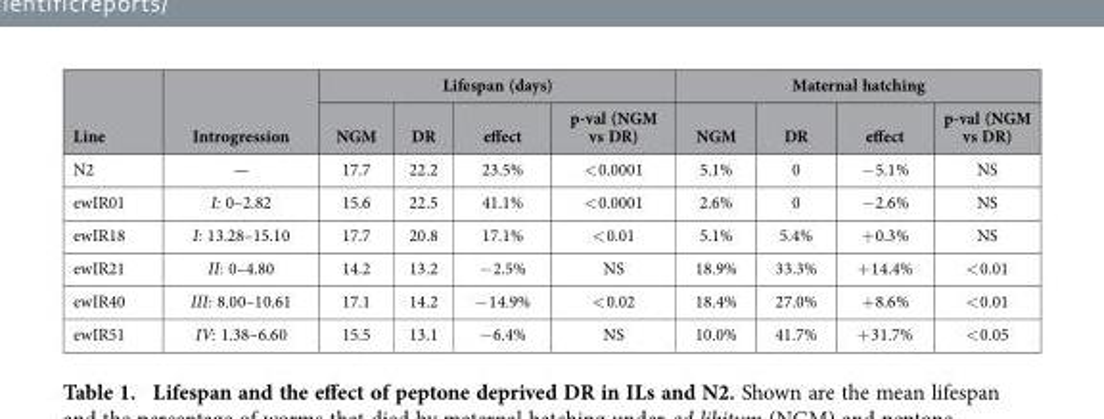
<table><thead><tr><td rowspan="2">Line</td><td rowspan="2">Introgression</td><td colspan="4">Lifespan (days)</td><td colspan="4">Maternal hatching</td></tr><tr><td>NGM</td><td>DR</td><td>effect</td><td>p-val (NGM vs DR)</td><td>NGM</td><td>DR</td><td>effect</td><td>p-val (NGM vs DR)</td></tr></thead><tbody><tr><td>N2</td><td>—</td><td>17.7</td><td>22.2</td><td>23.5%</td><td>&lt; 0.0001</td><td>5.1%</td><td>0</td><td>− 5.1%</td><td>NS</td></tr><tr><td>ewIR01</td><td>I: 0–2.82</td><td>15.6</td><td>22.5</td><td>41.1%</td><td>&lt; 0.0001</td><td>2.6%</td><td>0</td><td>− 2.6%</td><td>NS</td></tr><tr><td>ewIR18</td><td>I: 13.28–15.10</td><td>17.7</td><td>20.8</td><td>17.1%</td><td>&lt; 0.01</td><td>5.1%</td><td>5.4%</td><td>+ 0.3%</td><td>NS</td></tr><tr><td>ewIR21</td><td>II: 0–4.80</td><td>14.2</td><td>13.2</td><td>− 2.5%</td><td>NS</td><td>18.9%</td><td>33.3%</td><td>+ 14.4%</td><td>&lt; 0.01</td></tr><tr><td>ewIR40</td><td>III: 8.00–10.61</td><td>17.1</td><td>14.2</td><td>− 14.9%</td><td>&lt; 0.02</td><td>18.4%</td><td>27.0%</td><td>+ 8.6%</td><td>&lt; 0.01</td></tr><tr><td>ewIR51</td><td>IV: 1.38–6.60</td><td>15.5</td><td>13.1</td><td>− 6.4%</td><td>NS</td><td>10.0%</td><td>41.7%</td><td>+ 31.7%</td><td>&lt; 0.05</td></tr></tbody></table>